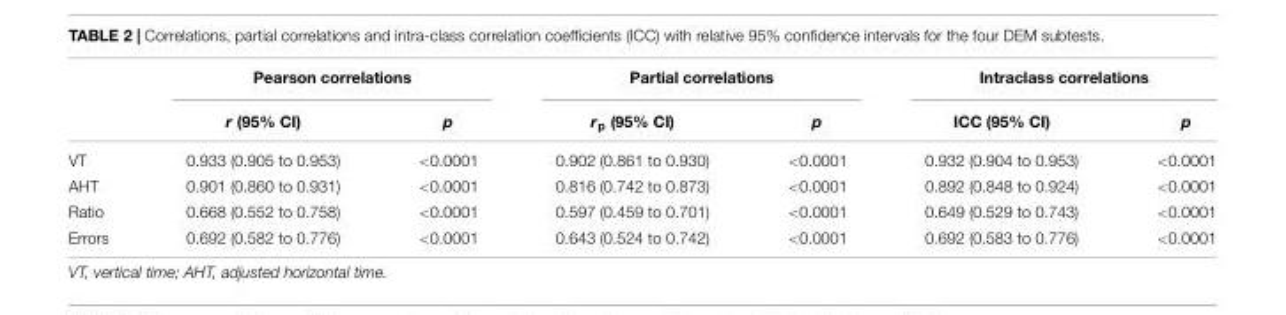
<table><thead><tr><td rowspan="2"></td><td colspan="2">Pearson correlations</td><td colspan="2">Partial correlations</td><td colspan="2">Intraclass correlations</td></tr><tr><td>r (95% CI)</td><td>p</td><td>r<sub>p</sub> (95% CI)</td><td>p</td><td>ICC (95% CI)</td><td>p</td></tr></thead><tbody><tr><td>VT</td><td>0.933 (0.905 to 0.953)</td><td>&lt;0.0001</td><td>0.902 (0.861 to 0.930)</td><td>&lt;0.0001</td><td>0.932 (0.904 to 0.953)</td><td>&lt;0.0001</td></tr><tr><td>AHT</td><td>0.901 (0.860 to 0.931)</td><td>&lt;0.0001</td><td>0.816 (0.742 to 0.873)</td><td>&lt;0.0001</td><td>0.892 (0.848 to 0.924)</td><td>&lt;0.0001</td></tr><tr><td>Ratio</td><td>0.668 (0.552 to 0.758)</td><td>&lt;0.0001</td><td>0.597 (0.459 to 0.701)</td><td>&lt;0.0001</td><td>0.649 (0.529 to 0.743)</td><td>&lt;0.0001</td></tr><tr><td>Errors</td><td>0.692 (0.582 to 0.776)</td><td>&lt;0.0001</td><td>0.643 (0.524 to 0.742)</td><td>&lt;0.0001</td><td>0.692 (0.583 to 0.776)</td><td>&lt;0.0001</td></tr></tbody></table>